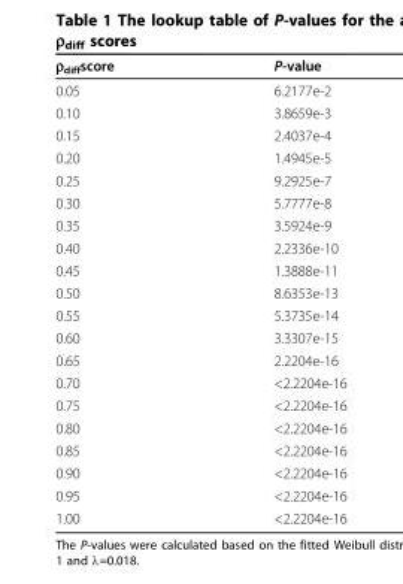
<table><thead><tr><td>ρ<sub>diff</sub>score</td><td>P-value</td></tr></thead><tbody><tr><td>0.05</td><td>6.2177e-2</td></tr><tr><td>0.10</td><td>3.8659e-3</td></tr><tr><td>0.15</td><td>2.4037e-4</td></tr><tr><td>0.20</td><td>1.4945e-5</td></tr><tr><td>0.25</td><td>9.2925e-7</td></tr><tr><td>0.30</td><td>5.7777e-8</td></tr><tr><td>0.35</td><td>3.5924e-9</td></tr><tr><td>0.40</td><td>2.2336e-10</td></tr><tr><td>0.45</td><td>1.3888e-11</td></tr><tr><td>0.50</td><td>8.6353e-13</td></tr><tr><td>0.55</td><td>5.3735e-14</td></tr><tr><td>0.60</td><td>3.3307e-15</td></tr><tr><td>0.65</td><td>2.2204e-16</td></tr><tr><td>0.70</td><td>&lt;2.2204e-16</td></tr><tr><td>0.75</td><td>&lt;2.2204e-16</td></tr><tr><td>0.80</td><td>&lt;2.2204e-16</td></tr><tr><td>0.85</td><td>&lt;2.2204e-16</td></tr><tr><td>0.90</td><td>&lt;2.2204e-16</td></tr><tr><td>0.95</td><td>&lt;2.2204e-16</td></tr><tr><td>1.00</td><td>&lt;2.2204e-16</td></tr></tbody></table>